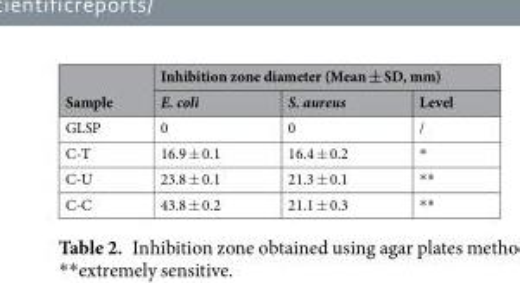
<table><thead><tr><td rowspan="2">Sample</td><td colspan="3">Inhibition zone diameter (Mean ± SD, mm)</td></tr><tr><td>E. coli</td><td>S. aureus</td><td>Level</td></tr></thead><tbody><tr><td>GLSP</td><td>0</td><td>0</td><td>/</td></tr><tr><td>C-T</td><td>16.9 ± 0.1</td><td>16.4 ± 0.2</td><td>*</td></tr><tr><td>C-U</td><td>23.8 ± 0.1</td><td>21.3 ± 0.1</td><td>**</td></tr><tr><td>C-C</td><td>43.8 ± 0.2</td><td>21.1 ± 0.3</td><td>**</td></tr></tbody></table>